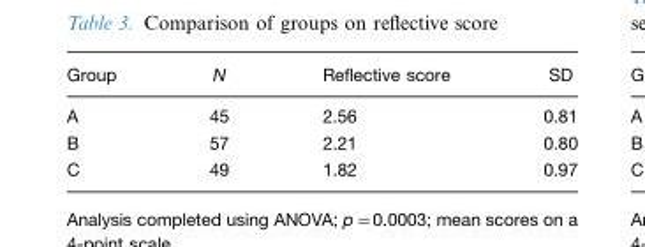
<table><thead><tr><td>Group</td><td>N</td><td>Reflective score</td><td>SD</td></tr></thead><tbody><tr><td>A</td><td>45</td><td>2.56</td><td>0.81</td></tr><tr><td>B</td><td>57</td><td>2.21</td><td>0.80</td></tr><tr><td>C</td><td>49</td><td>1.82</td><td>0.97</td></tr></tbody></table>